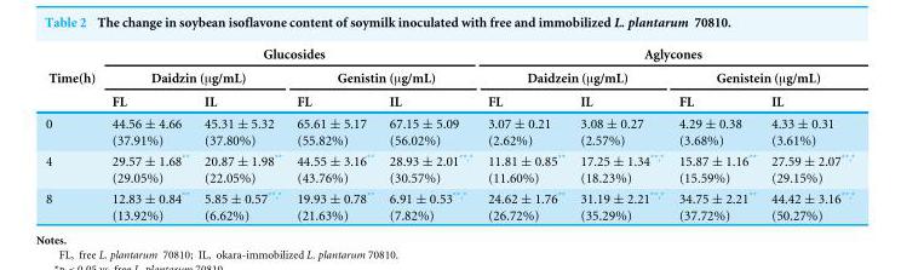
<table><thead><tr><td rowspan="3">Time(h)</td><td colspan="4">Glucosides</td><td colspan="4">Aglycones</td></tr><tr><td colspan="2">Daidzin (µg/mL)</td><td colspan="2">Genistin (µg/mL)</td><td colspan="2">Daidzein (µg/mL)</td><td colspan="2">Genistein (µg/mL)</td></tr><tr><td>FL</td><td>IL</td><td>FL</td><td>IL</td><td>FL</td><td>IL</td><td>FL</td><td>IL</td></tr></thead><tbody><tr><td>0</td><td>44.56 ± 4.66 (37.91%)</td><td>45.31 ± 5.32 (37.80%)</td><td>65.61 ± 5.17 (55.82%)</td><td>67.15 ± 5.09 (56.02%)</td><td>3.07 ± 0.21 (2.62%)</td><td>3.08 ± 0.27 (2.57%)</td><td>4.29 ± 0.38 (3.68%)</td><td>4.33 ± 0.31 (3.61%)</td></tr><tr><td>4</td><td>29.57 ± 1.68** (29.05%)</td><td>20.87 ± 1.98** (22.05%)</td><td>44.55 ± 3.16** (43.76%)</td><td>28.93 ± 2.01<sup>**,*</sup> (30.57%)</td><td>11.81 ± 0.85** (11.60%)</td><td>17.25 ± 1.34<sup>**,*</sup> (18.23%)</td><td>15.87 ± 1.16** (15.59%)</td><td>27.59 ± 2.07<sup>**,*</sup> (29.15%)</td></tr><tr><td>8</td><td>12.83 ± 0.84** (13.92%)</td><td>5.85 ± 0.57<sup>**,*</sup> (6.62%)</td><td>19.93 ± 0.78** (21.63%)</td><td>6.91 ± 0.53<sup>**,*</sup> (7.82%)</td><td>24.62 ± 1.76** (26.72%)</td><td>31.19 ± 2.21<sup>**,*</sup> (35.29%)</td><td>34.75 ± 2.21** (37.72%)</td><td>44.42 ± 3.16<sup>**,*</sup> (50.27%)</td></tr></tbody></table>